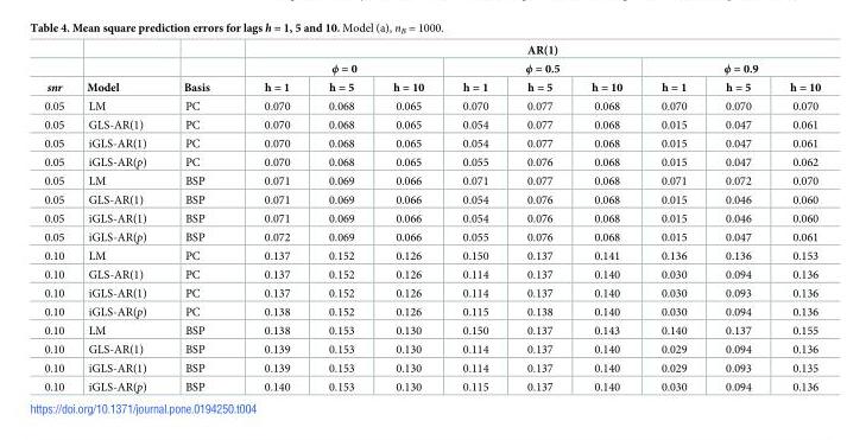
<table><thead><tr><td rowspan="3">snr</td><td rowspan="3">Model</td><td rowspan="3">Basis</td><td colspan="9">AR(1)</td></tr><tr><td colspan="3">ϕ = 0</td><td colspan="3">ϕ = 0.5</td><td colspan="3">ϕ = 0.9</td></tr><tr><td>h = 1</td><td>h = 5</td><td>h = 10</td><td>h = 1</td><td>h = 5</td><td>h = 10</td><td>h = 1</td><td>h = 5</td><td>h = 10</td></tr></thead><tbody><tr><td>0.05</td><td>LM</td><td>PC</td><td>0.070</td><td>0.068</td><td>0.065</td><td>0.070</td><td>0.077</td><td>0.068</td><td>0.070</td><td>0.070</td><td>0.070</td></tr><tr><td>0.05</td><td>GLS-AR(1)</td><td>PC</td><td>0.070</td><td>0.068</td><td>0.065</td><td>0.054</td><td>0.077</td><td>0.068</td><td>0.015</td><td>0.047</td><td>0.061</td></tr><tr><td>0.05</td><td>iGLS-AR(1)</td><td>PC</td><td>0.070</td><td>0.068</td><td>0.065</td><td>0.054</td><td>0.077</td><td>0.068</td><td>0.015</td><td>0.047</td><td>0.061</td></tr><tr><td>0.05</td><td>iGLS-AR(p)</td><td>PC</td><td>0.070</td><td>0.068</td><td>0.065</td><td>0.055</td><td>0.076</td><td>0.068</td><td>0.015</td><td>0.047</td><td>0.062</td></tr><tr><td>0.05</td><td>LM</td><td>BSP</td><td>0.071</td><td>0.069</td><td>0.066</td><td>0.071</td><td>0.077</td><td>0.068</td><td>0.071</td><td>0.072</td><td>0.070</td></tr><tr><td>0.05</td><td>GLS-AR(1)</td><td>BSP</td><td>0.071</td><td>0.069</td><td>0.066</td><td>0.054</td><td>0.076</td><td>0.068</td><td>0.015</td><td>0.046</td><td>0.060</td></tr><tr><td>0.05</td><td>iGLS-AR(1)</td><td>BSP</td><td>0.071</td><td>0.069</td><td>0.066</td><td>0.054</td><td>0.076</td><td>0.068</td><td>0.015</td><td>0.046</td><td>0.060</td></tr><tr><td>0.05</td><td>iGLS-AR(p)</td><td>BSP</td><td>0.072</td><td>0.069</td><td>0.066</td><td>0.055</td><td>0.076</td><td>0.068</td><td>0.015</td><td>0.047</td><td>0.061</td></tr><tr><td>0.10</td><td>LM</td><td>PC</td><td>0.137</td><td>0.152</td><td>0.126</td><td>0.150</td><td>0.137</td><td>0.141</td><td>0.136</td><td>0.136</td><td>0.153</td></tr><tr><td>0.10</td><td>GLS-AR(1)</td><td>PC</td><td>0.137</td><td>0.152</td><td>0.126</td><td>0.114</td><td>0.137</td><td>0.140</td><td>0.030</td><td>0.094</td><td>0.136</td></tr><tr><td>0.10</td><td>iGLS-AR(1)</td><td>PC</td><td>0.137</td><td>0.152</td><td>0.126</td><td>0.114</td><td>0.137</td><td>0.140</td><td>0.030</td><td>0.093</td><td>0.136</td></tr><tr><td>0.10</td><td>iGLS-AR(p)</td><td>PC</td><td>0.138</td><td>0.152</td><td>0.126</td><td>0.115</td><td>0.138</td><td>0.140</td><td>0.030</td><td>0.094</td><td>0.136</td></tr><tr><td>0.10</td><td>LM</td><td>BSP</td><td>0.138</td><td>0.153</td><td>0.130</td><td>0.150</td><td>0.137</td><td>0.143</td><td>0.140</td><td>0.137</td><td>0.155</td></tr><tr><td>0.10</td><td>GLS-AR(1)</td><td>BSP</td><td>0.139</td><td>0.153</td><td>0.130</td><td>0.114</td><td>0.137</td><td>0.140</td><td>0.029</td><td>0.094</td><td>0.136</td></tr><tr><td>0.10</td><td>iGLS-AR(1)</td><td>BSP</td><td>0.139</td><td>0.153</td><td>0.130</td><td>0.114</td><td>0.137</td><td>0.140</td><td>0.029</td><td>0.093</td><td>0.135</td></tr><tr><td>0.10</td><td>iGLS-AR(p)</td><td>BSP</td><td>0.140</td><td>0.153</td><td>0.130</td><td>0.115</td><td>0.137</td><td>0.140</td><td>0.030</td><td>0.094</td><td>0.136</td></tr></tbody></table>